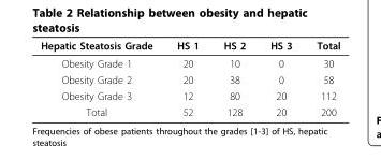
<table><thead><tr><td>Hepatic Steatosis Grade</td><td>HS 1</td><td>HS 2</td><td>HS 3</td><td>Total</td></tr></thead><tbody><tr><td>Obesity Grade 1</td><td>20</td><td>10</td><td>0</td><td>30</td></tr><tr><td>Obesity Grade 2</td><td>20</td><td>38</td><td>0</td><td>58</td></tr><tr><td>Obesity Grade 3</td><td>12</td><td>80</td><td>20</td><td>112</td></tr><tr><td>Total</td><td>52</td><td>128</td><td>20</td><td>200</td></tr></tbody></table>